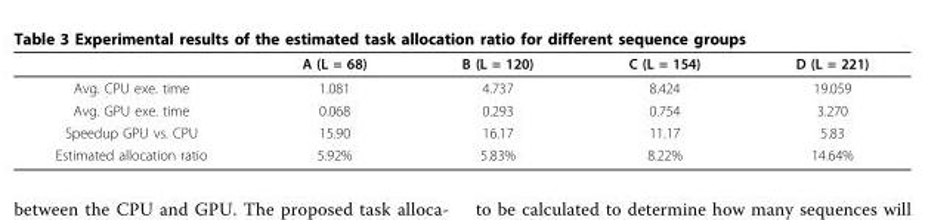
<table><thead><tr><td></td><td>A (L = 68)</td><td>B (L = 120)</td><td>C (L = 154)</td><td>D (L = 221)</td></tr></thead><tbody><tr><td>Avg. CPU exe. time</td><td>1.081</td><td>4.737</td><td>8.424</td><td>19.059</td></tr><tr><td>Avg. GPU exe. time</td><td>0.068</td><td>0.293</td><td>0.754</td><td>3.270</td></tr><tr><td>Speedup GPU vs. CPU</td><td>15.90</td><td>16.17</td><td>11.17</td><td>5.83</td></tr><tr><td>Estimated allocation ratio</td><td>5.92%</td><td>5.83%</td><td>8.22%</td><td>14.64%</td></tr></tbody></table>